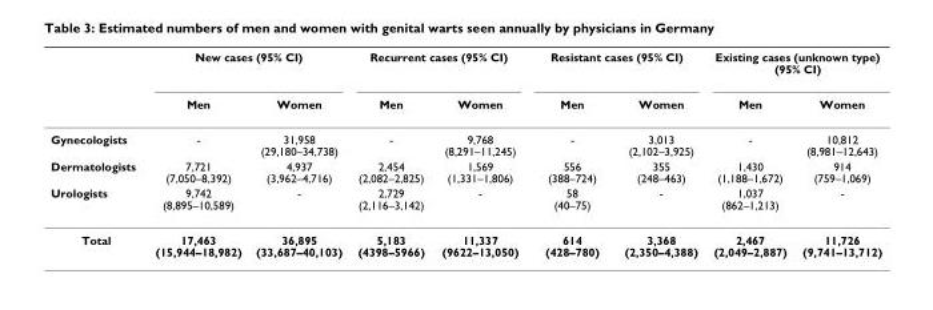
<table><thead><tr><td rowspan="2"></td><td colspan="2">New cases (95% CI)</td><td colspan="2">Recurrent cases (95% CI)</td><td colspan="2">Resistant cases (95% CI)</td><td colspan="2">Existing cases (unknown type) (95% CI)</td></tr><tr><td>Men</td><td>Women</td><td>Men</td><td>Women</td><td>Men</td><td>Women</td><td>Men</td><td>Women</td></tr></thead><tbody><tr><td>Gynecologists</td><td>-</td><td>31,958 (29,180–34,738)</td><td>-</td><td>9,768 (8,291–11,245)</td><td>-</td><td>3,013 (2,102–3,925)</td><td>-</td><td>10,812 (8,981–12,643)</td></tr><tr><td>Dermatologists</td><td>7,721 (7,050–8,392)</td><td>4,937 (3,962–4,716)</td><td>2,454 (2,082–2,825)</td><td>1,569 (1,331–1,806)</td><td>556 (388–724)</td><td>355 (248–463)</td><td>1,430 (1,188–1,672)</td><td>914 (759–1,069)</td></tr><tr><td>Urologists</td><td>9,742 (8,895–10,589)</td><td>-</td><td>2,729 (2,116–3,142)</td><td>-</td><td>58 (40–75)</td><td>-</td><td>1,037 (862–1,213)</td><td>-</td></tr><tr><td>Total</td><td>17,463 (15,944–18,982)</td><td>36,895 (33,687–40,103)</td><td>5,183 (4398–5966)</td><td>11,337 (9622–13,050)</td><td>614 (428–780)</td><td>3,368 (2,350–4,388)</td><td>2,467 (2,049–2,887)</td><td>11,726 (9,741–13,712)</td></tr></tbody></table>